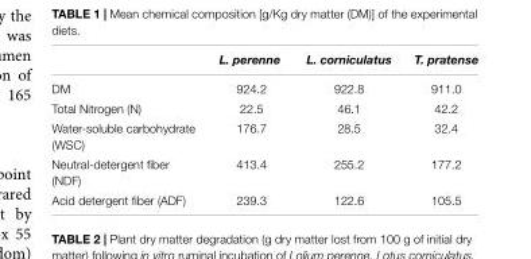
<table><thead><tr><td></td><td>L. perenne</td><td>L. corniculatus</td><td>T. pratense</td></tr></thead><tbody><tr><td>DM</td><td>924.2</td><td>922.8</td><td>911.0</td></tr><tr><td>Total Nitrogen (N)</td><td>22.5</td><td>46.1</td><td>42.2</td></tr><tr><td>Water-soluble carbohydrate (WSC)</td><td>176.7</td><td>28.5</td><td>32.4</td></tr><tr><td>Neutral-detergent fiber (NDF)</td><td>413.4</td><td>255.2</td><td>177.2</td></tr><tr><td>Acid detergent fiber (ADF)</td><td>239.3</td><td>122.6</td><td>105.5</td></tr></tbody></table>